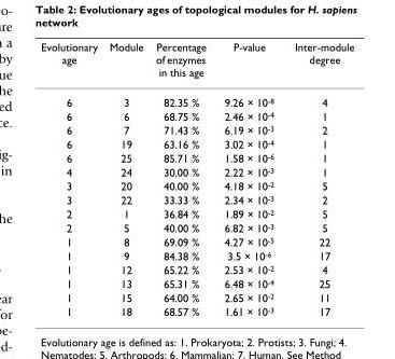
<table><thead><tr><td>Evolutionary age</td><td>Module</td><td>Percentage of enzymes in this age</td><td>P-value</td><td>Inter-module degree</td></tr></thead><tbody><tr><td>6</td><td>3</td><td>82.35 %</td><td>9.26 × 10<sup>-8</sup></td><td>4</td></tr><tr><td>6</td><td>6</td><td>68.75 %</td><td>2.46 × 10<sup>-4</sup></td><td>1</td></tr><tr><td>6</td><td>7</td><td>71.43 %</td><td>6.19 × 10<sup>-3</sup></td><td>2</td></tr><tr><td>6</td><td>19</td><td>63.16 %</td><td>3.02 × 10<sup>-4</sup></td><td>1</td></tr><tr><td>6</td><td>25</td><td>85.71 %</td><td>1.58 × 10<sup>-6</sup></td><td>1</td></tr><tr><td>4</td><td>24</td><td>30.00 %</td><td>2.22 × 10<sup>-3</sup></td><td>1</td></tr><tr><td>3</td><td>20</td><td>40.00 %</td><td>4.18 × 10<sup>-2</sup></td><td>5</td></tr><tr><td>3</td><td>22</td><td>33.33 %</td><td>2.34 × 10<sup>-3</sup></td><td>2</td></tr><tr><td>2</td><td>1</td><td>36.84 %</td><td>1.89 × 10<sup>-2</sup></td><td>5</td></tr><tr><td>2</td><td>5</td><td>40.00 %</td><td>6.82 × 10<sup>-3</sup></td><td>5</td></tr><tr><td>1</td><td>8</td><td>69.09 %</td><td>4.27 × 10<sup>-5</sup></td><td>22</td></tr><tr><td>1</td><td>9</td><td>84.38 %</td><td>3.5 × 10<sup>-6</sup></td><td>17</td></tr><tr><td>1</td><td>12</td><td>65.22 %</td><td>2.53 × 10<sup>-2</sup></td><td>4</td></tr><tr><td>1</td><td>13</td><td>65.31 %</td><td>6.48 × 10<sup>-4</sup></td><td>25</td></tr><tr><td>1</td><td>15</td><td>64.00 %</td><td>2.65 × 10<sup>-2</sup></td><td>11</td></tr><tr><td>1</td><td>18</td><td>68.57 %</td><td>1.61 × 10<sup>-3</sup></td><td>17</td></tr></tbody></table>